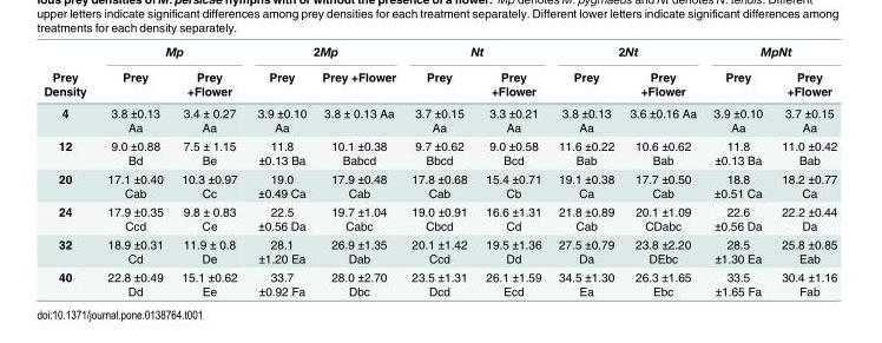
<table><thead><tr><td rowspan="2">Prey Density</td><td colspan="2">Mp</td><td colspan="2">2Mp</td><td colspan="2">Nt</td><td colspan="2">2Nt</td><td colspan="2">MpNt</td></tr><tr><td>Prey</td><td>Prey +Flower</td><td>Prey</td><td>Prey +Flower</td><td>Prey</td><td>Prey +Flower</td><td>Prey</td><td>Prey +Flower</td><td>Prey</td><td>Prey +Flower</td></tr></thead><tbody><tr><td>4</td><td>3.8 ±0.13 Aa</td><td>3.4 ± 0.27 Aa</td><td>3.9 ±0.10 Aa</td><td>3.8 ± 0.13 Aa</td><td>3.7 ±0.15 Aa</td><td>3.3 ±0.21 Aa</td><td>3.8 ±0.13 Aa</td><td>3.6 ±0.16 Aa</td><td>3.9 ±0.10 Aa</td><td>3.7 ±0.15 Aa</td></tr><tr><td>12</td><td>9.0 ±0.88 Bd</td><td>7.5 ± 1.15 Be</td><td>11.8 ±0.13 Ba</td><td>10.1 ±0.38 Babcd</td><td>9.7 ±0.62 Bbcd</td><td>9.0 ±0.58 Bcd</td><td>11.6 ±0.22 Bab</td><td>10.6 ±0.62 Bab</td><td>11.8 ±0.13 Ba</td><td>11.0 ±0.42 Bab</td></tr><tr><td>20</td><td>17.1 ±0.40 Cab</td><td>10.3 ±0.97 Cc</td><td>19.0 ±0.49 Ca</td><td>17.9 ±0.48 Cab</td><td>17.8 ±0.68 Cab</td><td>15.4 ±0.71 Cb</td><td>19.1 ±0.38 Ca</td><td>17.7 ±0.50 Cab</td><td>18.8 ±0.51 Ca</td><td>18.2 ±0.77 Ca</td></tr><tr><td>24</td><td>17.9 ±0.35 Ccd</td><td>9.8 ± 0.83 Ce</td><td>22.5 ±0.56 Da</td><td>19.7 ±1.04 Cabc</td><td>19.0 ±0.91 Cbcd</td><td>16.6 ±1.31 Cd</td><td>21.8 ±0.89 Cab</td><td>20.1 ±1.09 CDabc</td><td>22.6 ±0.56 Da</td><td>22.2 ±0.44 Da</td></tr><tr><td>32</td><td>18.9 ±0.31 Cd</td><td>11.9 ± 0.8 De</td><td>28.1 ±1.20 Ea</td><td>26.9 ±1.35 Dab</td><td>20.1 ±1.42 Ccd</td><td>19.5 ±1.36 Dd</td><td>27.5 ±0.79 Da</td><td>23.8 ±2.20 DEbc</td><td>28.5 ±1.30 Ea</td><td>25.8 ±0.85 Eab</td></tr><tr><td>40</td><td>22.8 ±0.49 Dd</td><td>15.1 ±0.62 Ee</td><td>33.7 ±0.92 Fa</td><td>28.0 ±2.70 Dbc</td><td>23.5 ±1.31 Dcd</td><td>26.1 ±1.59 Ecd</td><td>34.5 ±1.30 Ea</td><td>26.3 ±1.65 Ebc</td><td>33.5 ±1.65 Fa</td><td>30.4 ±1.16 Fab</td></tr></tbody></table>